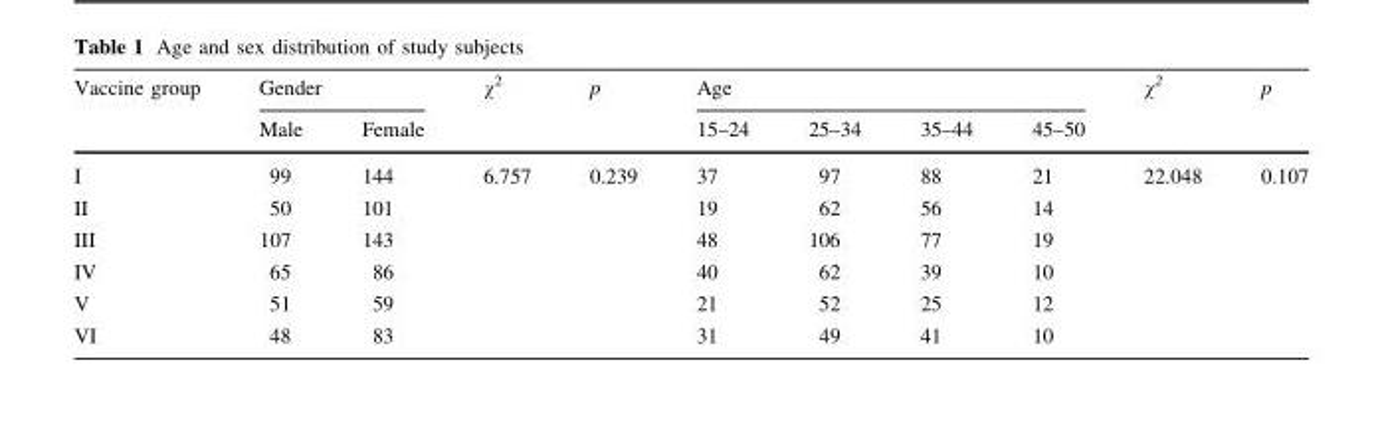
<table><thead><tr><td rowspan="2">Vaccine group</td><td colspan="2">Gender</td><td rowspan="2">χ<sup>2</sup></td><td rowspan="2">p</td><td colspan="4">Age</td><td rowspan="2">χ<sup>2</sup></td><td rowspan="2">p</td></tr><tr><td>Male</td><td>Female</td><td>15–24</td><td>25–34</td><td>35–44</td><td>45–50</td></tr></thead><tbody><tr><td>I</td><td>99</td><td>144</td><td rowspan="6">6.757</td><td rowspan="6">0.239</td><td>37</td><td>97</td><td>88</td><td>21</td><td rowspan="6">22.048</td><td rowspan="6">0.107</td></tr><tr><td>II</td><td>50</td><td>101</td><td>19</td><td>62</td><td>56</td><td>14</td></tr><tr><td>III</td><td>107</td><td>143</td><td>48</td><td>106</td><td>77</td><td>19</td></tr><tr><td>IV</td><td>65</td><td>86</td><td>40</td><td>62</td><td>39</td><td>10</td></tr><tr><td>V</td><td>51</td><td>59</td><td>21</td><td>52</td><td>25</td><td>12</td></tr><tr><td>VI</td><td>48</td><td>83</td><td>31</td><td>49</td><td>41</td><td>10</td></tr></tbody></table>